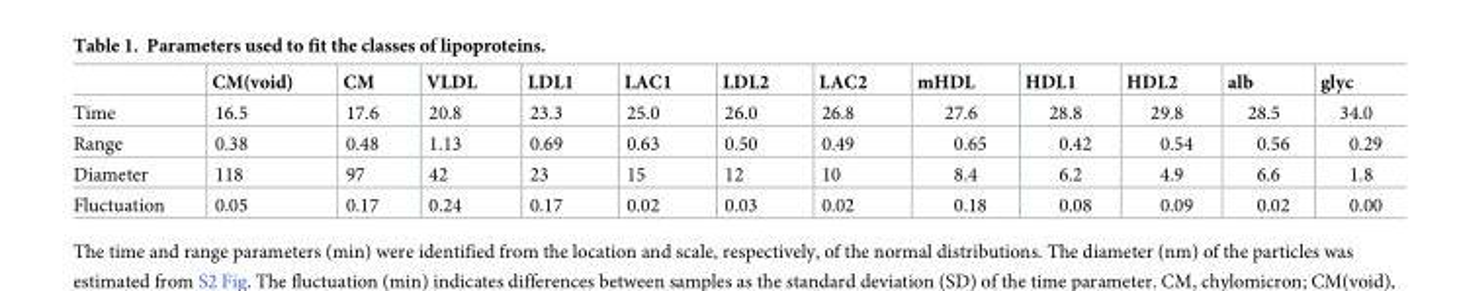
<table><thead><tr><td></td><td>CM(void)</td><td>CM</td><td>VLDL</td><td>LDL1</td><td>LAC1</td><td>LDL2</td><td>LAC2</td><td>mHDL</td><td>HDL1</td><td>HDL2</td><td>alb</td><td>glyc</td></tr></thead><tbody><tr><td>Time</td><td>16.5</td><td>17.6</td><td>20.8</td><td>23.3</td><td>25.0</td><td>26.0</td><td>26.8</td><td>27.6</td><td>28.8</td><td>29.8</td><td>28.5</td><td>34.0</td></tr><tr><td>Range</td><td>0.38</td><td>0.48</td><td>1.13</td><td>0.69</td><td>0.63</td><td>0.50</td><td>0.49</td><td>0.65</td><td>0.42</td><td>0.54</td><td>0.56</td><td>0.29</td></tr><tr><td>Diameter</td><td>118</td><td>97</td><td>42</td><td>23</td><td>15</td><td>12</td><td>10</td><td>8.4</td><td>6.2</td><td>4.9</td><td>6.6</td><td>1.8</td></tr><tr><td>Fluctuation</td><td>0.05</td><td>0.17</td><td>0.24</td><td>0.17</td><td>0.02</td><td>0.03</td><td>0.02</td><td>0.18</td><td>0.08</td><td>0.09</td><td>0.02</td><td>0.00</td></tr></tbody></table>